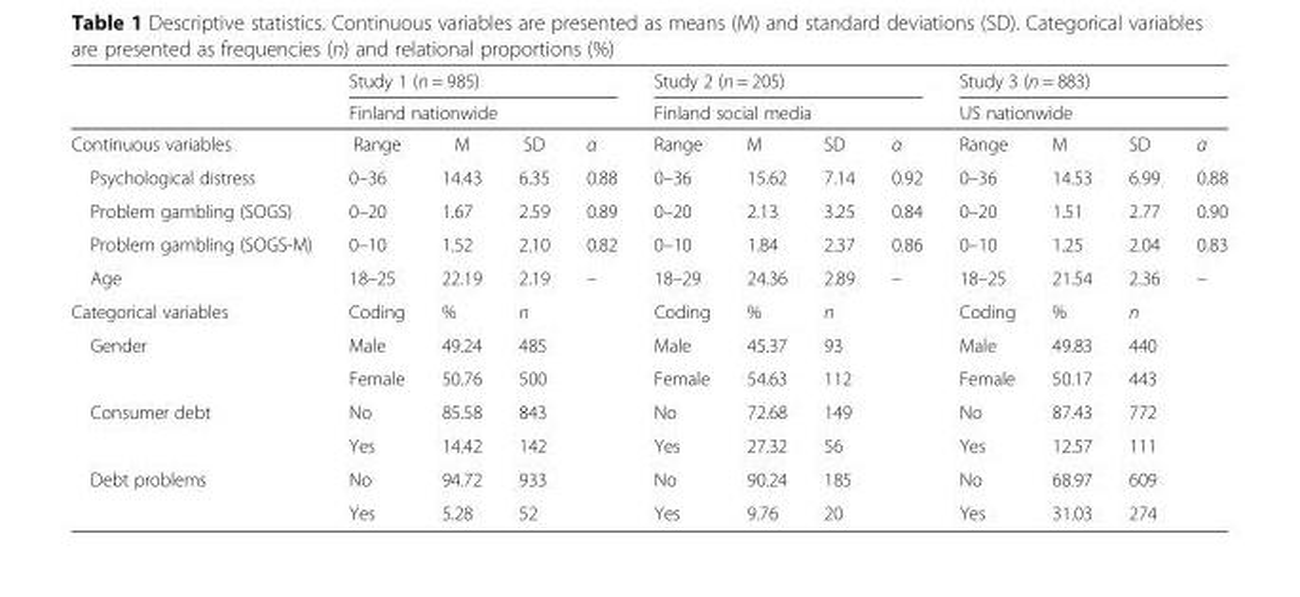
<table><thead><tr><td rowspan="3">Continuous variables</td><td rowspan="2" colspan="4">Study 1 (n = 985) Finland nationwide</td><td rowspan="2" colspan="4">Study 2 (n = 205) Finland social media</td><td rowspan="2" colspan="4">Study 3 (n = 883) US nationwide</td></tr><tr></tr><tr><td>Range</td><td>M</td><td>SD</td><td>α</td><td>Range</td><td>M</td><td>SD</td><td>α</td><td>Range</td><td>M</td><td>SD</td><td>α</td></tr></thead><tbody><tr><td>Psychological distress</td><td>0–36</td><td>14.43</td><td>6.35</td><td>0.88</td><td>0–36</td><td>15.62</td><td>7.14</td><td>0.92</td><td>0–36</td><td>14.53</td><td>6.99</td><td>0.88</td></tr><tr><td>Problem gambling (SOGS)</td><td>0–20</td><td>1.67</td><td>2.59</td><td>0.89</td><td>0–20</td><td>2.13</td><td>3.25</td><td>0.84</td><td>0–20</td><td>1.51</td><td>2.77</td><td>0.90</td></tr><tr><td>Problem gambling (SOGS-M)</td><td>0–10</td><td>1.52</td><td>2.10</td><td>0.82</td><td>0–10</td><td>1.84</td><td>2.37</td><td>0.86</td><td>0–10</td><td>1.25</td><td>2.04</td><td>0.83</td></tr><tr><td>Age</td><td>18–25</td><td>22.19</td><td>2.19</td><td>–</td><td>18–29</td><td>24.36</td><td>2.89</td><td>–</td><td>18–25</td><td>21.54</td><td>2.36</td><td>–</td></tr><tr><td>Categorical variables</td><td>Coding</td><td>%</td><td>n</td><td></td><td>Coding</td><td>%</td><td>n</td><td></td><td>Coding</td><td>%</td><td>n</td><td></td></tr><tr><td rowspan="2">Gender</td><td>Male</td><td>49.24</td><td>485</td><td></td><td>Male</td><td>45.37</td><td>93</td><td></td><td>Male</td><td>49.83</td><td>440</td><td></td></tr><tr><td>Female</td><td>50.76</td><td>500</td><td></td><td>Female</td><td>54.63</td><td>112</td><td></td><td>Female</td><td>50.17</td><td>443</td><td></td></tr><tr><td rowspan="2">Consumer debt</td><td>No</td><td>85.58</td><td>843</td><td></td><td>No</td><td>72.68</td><td>149</td><td></td><td>No</td><td>87.43</td><td>772</td><td></td></tr><tr><td>Yes</td><td>14.42</td><td>142</td><td></td><td>Yes</td><td>27.32</td><td>56</td><td></td><td>Yes</td><td>12.57</td><td>111</td><td></td></tr><tr><td rowspan="2">Debt problems</td><td>No</td><td>94.72</td><td>933</td><td></td><td>No</td><td>90.24</td><td>185</td><td></td><td>No</td><td>68.97</td><td>609</td><td></td></tr><tr><td>Yes</td><td>5.28</td><td>52</td><td></td><td>Yes</td><td>9.76</td><td>20</td><td></td><td>Yes</td><td>31.03</td><td>274</td><td></td></tr></tbody></table>